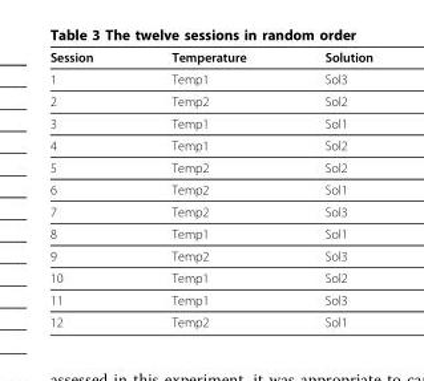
<table><thead><tr><td>Session</td><td>Temperature</td><td>Solution</td></tr></thead><tbody><tr><td>1</td><td>Temp1</td><td>Sol3</td></tr><tr><td>2</td><td>Temp2</td><td>Sol2</td></tr><tr><td>3</td><td>Temp1</td><td>Sol1</td></tr><tr><td>4</td><td>Temp1</td><td>Sol2</td></tr><tr><td>5</td><td>Temp2</td><td>Sol2</td></tr><tr><td>6</td><td>Temp2</td><td>Sol1</td></tr><tr><td>7</td><td>Temp2</td><td>Sol3</td></tr><tr><td>8</td><td>Temp1</td><td>Sol1</td></tr><tr><td>9</td><td>Temp2</td><td>Sol3</td></tr><tr><td>10</td><td>Temp1</td><td>Sol2</td></tr><tr><td>11</td><td>Temp1</td><td>Sol3</td></tr><tr><td>12</td><td>Temp2</td><td>Sol1</td></tr></tbody></table>